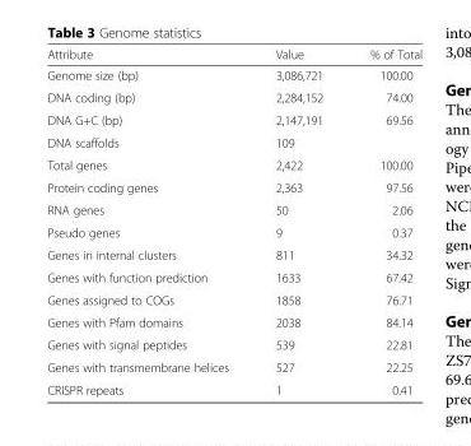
<table><thead><tr><td>Attribute</td><td>Value</td><td>% of Total</td></tr></thead><tbody><tr><td>Genome size (bp)</td><td>3,086,721</td><td>100.00</td></tr><tr><td>DNA coding (bp)</td><td>2,284,152</td><td>74.00</td></tr><tr><td>DNA G+C (bp)</td><td>2,147,191</td><td>69.56</td></tr><tr><td>DNA scaffolds</td><td>109</td><td></td></tr><tr><td>Total genes</td><td>2,422</td><td>100.00</td></tr><tr><td>Protein coding genes</td><td>2,363</td><td>97.56</td></tr><tr><td>RNA genes</td><td>50</td><td>2.06</td></tr><tr><td>Pseudo genes</td><td>9</td><td>0.37</td></tr><tr><td>Genes in internal clusters</td><td>811</td><td>34.32</td></tr><tr><td>Genes with function prediction</td><td>1633</td><td>67.42</td></tr><tr><td>Genes assigned to COGs</td><td>1858</td><td>76.71</td></tr><tr><td>Genes with Pfam domains</td><td>2038</td><td>84.14</td></tr><tr><td>Genes with signal peptides</td><td>539</td><td>22.81</td></tr><tr><td>Genes with transmembrane helices</td><td>527</td><td>22.25</td></tr><tr><td>CRISPR repeats</td><td>1</td><td>0.41</td></tr></tbody></table>